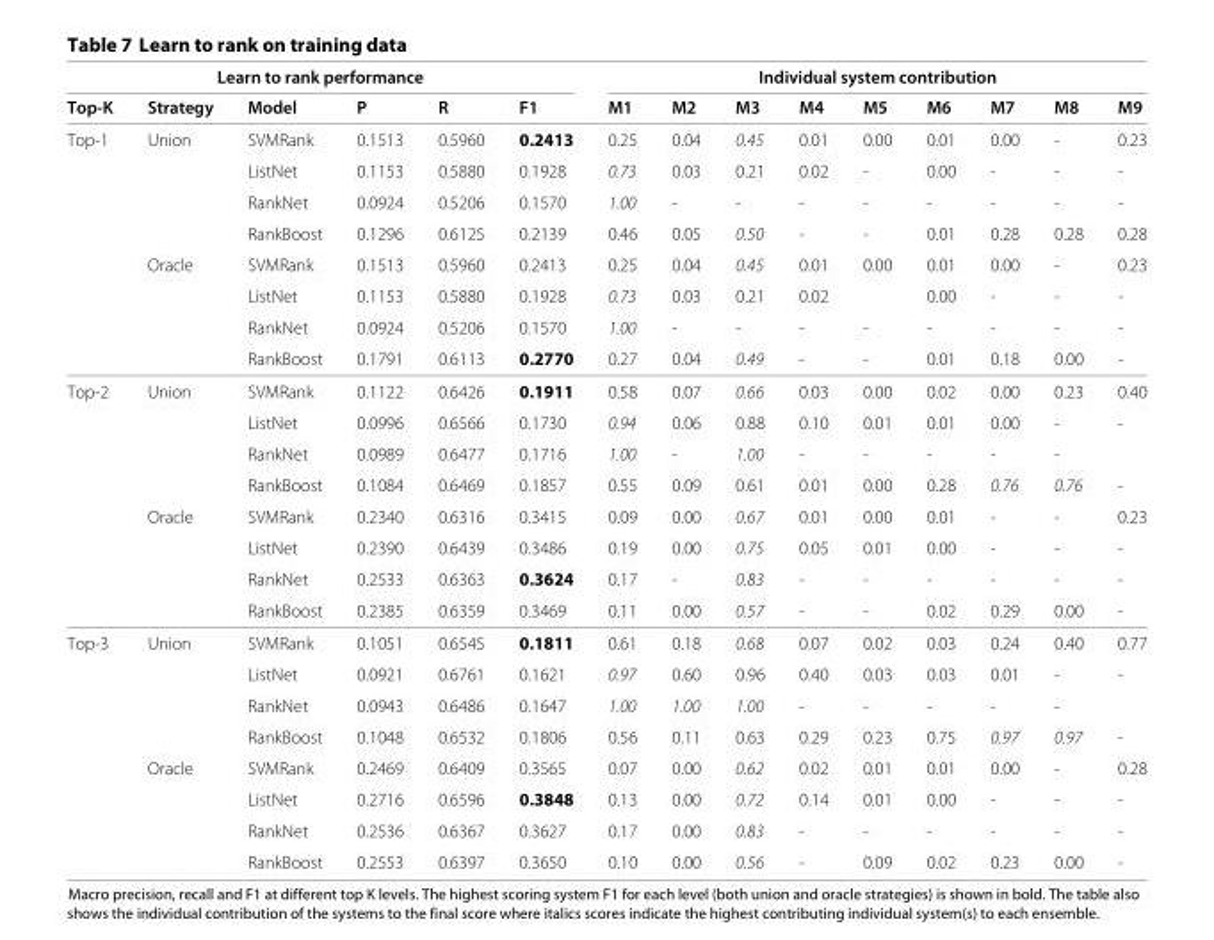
<table><thead><tr><td colspan="6">Learn to rank performance</td><td colspan="9">Individual system contribution</td></tr><tr><td>Top-K</td><td>Strategy</td><td>Model</td><td>P</td><td>R</td><td>F1</td><td>M1</td><td>M2</td><td>M3</td><td>M4</td><td>M5</td><td>M6</td><td>M7</td><td>M8</td><td>M9</td></tr></thead><tbody><tr><td rowspan="8">Top-1</td><td>Union</td><td>SVMRank</td><td>0.1513</td><td>0.5960</td><td>0.2413</td><td>0.25</td><td>0.04</td><td>0.45</td><td>0.01</td><td>0.00</td><td>0.01</td><td>0.00</td><td>-</td><td>0.23</td></tr><tr><td></td><td>ListNet</td><td>0.1153</td><td>0.5880</td><td>0.1928</td><td>0.73</td><td>0.03</td><td>0.21</td><td>0.02</td><td>-</td><td>0.00</td><td>-</td><td>-</td><td>-</td></tr><tr><td></td><td>RankNet</td><td>0.0924</td><td>0.5206</td><td>0.1570</td><td>1.00</td><td>-</td><td>-</td><td>-</td><td>-</td><td>-</td><td>-</td><td>-</td><td>-</td></tr><tr><td></td><td>RankBoost</td><td>0.1296</td><td>0.6125</td><td>0.2139</td><td>0.46</td><td>0.05</td><td>0.50</td><td>-</td><td>-</td><td>0.01</td><td>0.28</td><td>0.28</td><td>0.28</td></tr><tr><td>Oracle</td><td>SVMRank</td><td>0.1513</td><td>0.5960</td><td>0.2413</td><td>0.25</td><td>0.04</td><td>0.45</td><td>0.01</td><td>0.00</td><td>0.01</td><td>0.00</td><td>-</td><td>0.23</td></tr><tr><td></td><td>ListNet</td><td>0.1153</td><td>0.5880</td><td>0.1928</td><td>0.73</td><td>0.03</td><td>0.21</td><td>0.02</td><td></td><td>0.00</td><td>-</td><td>-</td><td>-</td></tr><tr><td></td><td>RankNet</td><td>0.0924</td><td>0.5206</td><td>0.1570</td><td>1.00</td><td>-</td><td>-</td><td>-</td><td>-</td><td>-</td><td>-</td><td>-</td><td>-</td></tr><tr><td></td><td>RankBoost</td><td>0.1791</td><td>0.6113</td><td>0.2770</td><td>0.27</td><td>0.04</td><td>0.49</td><td>-</td><td>-</td><td>0.01</td><td>0.18</td><td>0.00</td><td>-</td></tr><tr><td rowspan="8">Top-2</td><td>Union</td><td>SVMRank</td><td>0.1122</td><td>0.6426</td><td>0.1911</td><td>0.58</td><td>0.07</td><td>0.66</td><td>0.03</td><td>0.00</td><td>0.02</td><td>0.00</td><td>0.23</td><td>0.40</td></tr><tr><td></td><td>ListNet</td><td>0.0996</td><td>0.6566</td><td>0.1730</td><td>0.94</td><td>0.06</td><td>0.88</td><td>0.10</td><td>0.01</td><td>0.01</td><td>0.00</td><td>-</td><td>-</td></tr><tr><td></td><td>RankNet</td><td>0.0989</td><td>0.6477</td><td>0.1716</td><td>1.00</td><td>-</td><td>1.00</td><td>-</td><td>-</td><td>-</td><td>-</td><td>-</td><td></td></tr><tr><td></td><td>RankBoost</td><td>0.1084</td><td>0.6469</td><td>0.1857</td><td>0.55</td><td>0.09</td><td>0.61</td><td>0.01</td><td>0.00</td><td>0.28</td><td>0.76</td><td>0.76</td><td>-</td></tr><tr><td>Oracle</td><td>SVMRank</td><td>0.2340</td><td>0.6316</td><td>0.3415</td><td>0.09</td><td>0.00</td><td>0.67</td><td>0.01</td><td>0.00</td><td>0.01</td><td>-</td><td>-</td><td>0.23</td></tr><tr><td></td><td>ListNet</td><td>0.2390</td><td>0.6439</td><td>0.3486</td><td>0.19</td><td>0.00</td><td>0.75</td><td>0.05</td><td>0.01</td><td>0.00</td><td>-</td><td>-</td><td>-</td></tr><tr><td></td><td>RankNet</td><td>0.2533</td><td>0.6363</td><td>0.3624</td><td>0.17</td><td>-</td><td>0.83</td><td>-</td><td>-</td><td>-</td><td>-</td><td>-</td><td>-</td></tr><tr><td></td><td>RankBoost</td><td>0.2385</td><td>0.6359</td><td>0.3469</td><td>0.11</td><td>0.00</td><td>0.57</td><td>-</td><td>-</td><td>0.02</td><td>0.29</td><td>0.00</td><td>-</td></tr><tr><td rowspan="8">Top-3</td><td>Union</td><td>SVMRank</td><td>0.1051</td><td>0.6545</td><td>0.1811</td><td>0.61</td><td>0.18</td><td>0.68</td><td>0.07</td><td>0.02</td><td>0.03</td><td>0.24</td><td>0.40</td><td>0.77</td></tr><tr><td></td><td>ListNet</td><td>0.0921</td><td>0.6761</td><td>0.1621</td><td>0.97</td><td>0.60</td><td>0.96</td><td>0.40</td><td>0.03</td><td>0.03</td><td>0.01</td><td>-</td><td>-</td></tr><tr><td></td><td>RankNet</td><td>0.0943</td><td>0.6486</td><td>0.1647</td><td>1.00</td><td>1.00</td><td>1.00</td><td>-</td><td>-</td><td>-</td><td>-</td><td>-</td><td></td></tr><tr><td></td><td>RankBoost</td><td>0.1048</td><td>0.6532</td><td>0.1806</td><td>0.56</td><td>0.11</td><td>0.63</td><td>0.29</td><td>0.23</td><td>0.75</td><td>0.97</td><td>0.97</td><td>-</td></tr><tr><td>Oracle</td><td>SVMRank</td><td>0.2469</td><td>0.6409</td><td>0.3565</td><td>0.07</td><td>0.00</td><td>0.62</td><td>0.02</td><td>0.01</td><td>0.01</td><td>0.00</td><td>-</td><td>0.28</td></tr><tr><td></td><td>ListNet</td><td>0.2716</td><td>0.6596</td><td>0.3848</td><td>0.13</td><td>0.00</td><td>0.72</td><td>0.14</td><td>0.01</td><td>0.00</td><td>-</td><td>-</td><td>-</td></tr><tr><td></td><td>RankNet</td><td>0.2536</td><td>0.6367</td><td>0.3627</td><td>0.17</td><td>0.00</td><td>0.83</td><td>-</td><td>-</td><td>-</td><td>-</td><td>-</td><td>-</td></tr><tr><td></td><td>RankBoost</td><td>0.2553</td><td>0.6397</td><td>0.3650</td><td>0.10</td><td>0.00</td><td>0.56</td><td>-</td><td>0.09</td><td>0.02</td><td>0.23</td><td>0.00</td><td>-</td></tr></tbody></table>